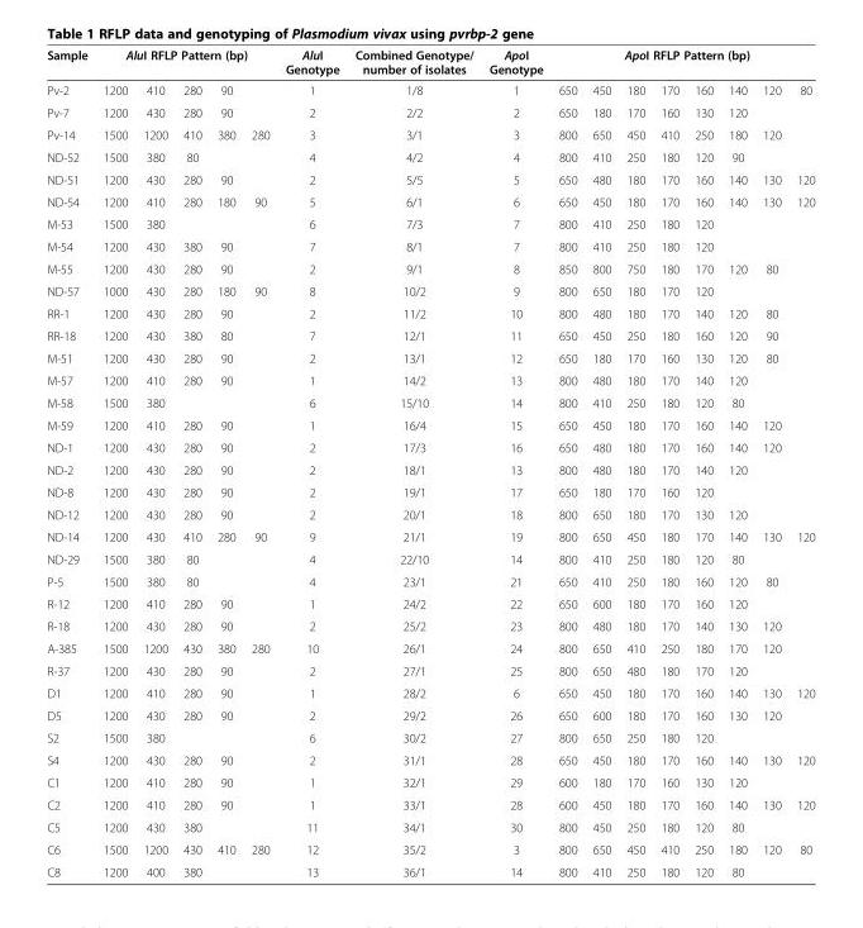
<table><thead><tr><td rowspan="2">Sample Pv-2</td><td colspan="5">AluI RFLP Pattern (bp)</td><td rowspan="2">AluI Genotype 1</td><td rowspan="2">Combined Genotype/ number of isolates 1/8</td><td rowspan="2">ApoI Genotype 1</td><td colspan="8">ApoI RFLP Pattern (bp)</td></tr><tr><td>1200</td><td>410</td><td>280</td><td>90</td><td></td><td>650</td><td>450</td><td>180</td><td>170</td><td>160</td><td>140</td><td>120</td><td>80</td></tr></thead><tbody><tr><td>Pv-7</td><td>1200</td><td>430</td><td>280</td><td>90</td><td></td><td>2</td><td>2/2</td><td>2</td><td>650</td><td>180</td><td>170</td><td>160</td><td>130</td><td>120</td><td></td><td></td></tr><tr><td>Pv-14</td><td>1500</td><td>1200</td><td>410</td><td>380</td><td>280</td><td>3</td><td>3/1</td><td>3</td><td>800</td><td>650</td><td>450</td><td>410</td><td>250</td><td>180</td><td>120</td><td></td></tr><tr><td>ND-52</td><td>1500</td><td>380</td><td>80</td><td></td><td></td><td>4</td><td>4/2</td><td>4</td><td>800</td><td>410</td><td>250</td><td>180</td><td>120</td><td>90</td><td></td><td></td></tr><tr><td>ND-51</td><td>1200</td><td>430</td><td>280</td><td>90</td><td></td><td>2</td><td>5/5</td><td>5</td><td>650</td><td>480</td><td>180</td><td>170</td><td>160</td><td>140</td><td>130</td><td>120</td></tr><tr><td>ND-54</td><td>1200</td><td>410</td><td>280</td><td>180</td><td>90</td><td>5</td><td>6/1</td><td>6</td><td>650</td><td>450</td><td>180</td><td>170</td><td>160</td><td>140</td><td>130</td><td>120</td></tr><tr><td>M-53</td><td>1500</td><td>380</td><td></td><td></td><td></td><td>6</td><td>7/3</td><td>7</td><td>800</td><td>410</td><td>250</td><td>180</td><td>120</td><td></td><td></td><td></td></tr><tr><td>M-54</td><td>1200</td><td>430</td><td>380</td><td>90</td><td></td><td>7</td><td>8/1</td><td>7</td><td>800</td><td>410</td><td>250</td><td>180</td><td>120</td><td></td><td></td><td></td></tr><tr><td>M-55</td><td>1200</td><td>430</td><td>280</td><td>90</td><td></td><td>2</td><td>9/1</td><td>8</td><td>850</td><td>800</td><td>750</td><td>180</td><td>170</td><td>120</td><td>80</td><td></td></tr><tr><td>ND-57</td><td>1000</td><td>430</td><td>280</td><td>180</td><td>90</td><td>8</td><td>10/2</td><td>9</td><td>800</td><td>650</td><td>180</td><td>170</td><td>120</td><td></td><td></td><td></td></tr><tr><td>RR-1</td><td>1200</td><td>430</td><td>280</td><td>90</td><td></td><td>2</td><td>11/2</td><td>10</td><td>800</td><td>480</td><td>180</td><td>170</td><td>140</td><td>120</td><td>80</td><td></td></tr><tr><td>RR-18</td><td>1200</td><td>430</td><td>380</td><td>80</td><td></td><td>7</td><td>12/1</td><td>11</td><td>650</td><td>450</td><td>250</td><td>180</td><td>160</td><td>120</td><td>90</td><td></td></tr><tr><td>M-51</td><td>1200</td><td>430</td><td>280</td><td>90</td><td></td><td>2</td><td>13/1</td><td>12</td><td>650</td><td>180</td><td>170</td><td>160</td><td>130</td><td>120</td><td>80</td><td></td></tr><tr><td>M-57</td><td>1200</td><td>410</td><td>280</td><td>90</td><td></td><td>1</td><td>14/2</td><td>13</td><td>800</td><td>480</td><td>180</td><td>170</td><td>140</td><td>120</td><td></td><td></td></tr><tr><td>M-58</td><td>1500</td><td>380</td><td></td><td></td><td></td><td>6</td><td>15/10</td><td>14</td><td>800</td><td>410</td><td>250</td><td>180</td><td>120</td><td>80</td><td></td><td></td></tr><tr><td>M-59</td><td>1200</td><td>410</td><td>280</td><td>90</td><td></td><td>1</td><td>16/4</td><td>15</td><td>650</td><td>450</td><td>180</td><td>170</td><td>160</td><td>140</td><td>120</td><td></td></tr><tr><td>ND-1</td><td>1200</td><td>430</td><td>280</td><td>90</td><td></td><td>2</td><td>17/3</td><td>16</td><td>650</td><td>480</td><td>180</td><td>170</td><td>160</td><td>140</td><td>120</td><td></td></tr><tr><td>ND-2</td><td>1200</td><td>430</td><td>280</td><td>90</td><td></td><td>2</td><td>18/1</td><td>13</td><td>800</td><td>480</td><td>180</td><td>170</td><td>140</td><td>120</td><td></td><td></td></tr><tr><td>ND-8</td><td>1200</td><td>430</td><td>280</td><td>90</td><td></td><td>2</td><td>19/1</td><td>17</td><td>650</td><td>180</td><td>170</td><td>160</td><td>120</td><td></td><td></td><td></td></tr><tr><td>ND-12</td><td>1200</td><td>430</td><td>280</td><td>90</td><td></td><td>2</td><td>20/1</td><td>18</td><td>800</td><td>650</td><td>180</td><td>170</td><td>130</td><td>120</td><td></td><td></td></tr><tr><td>ND-14</td><td>1200</td><td>430</td><td>410</td><td>280</td><td>90</td><td>9</td><td>21/1</td><td>19</td><td>800</td><td>650</td><td>450</td><td>180</td><td>170</td><td>140</td><td>130</td><td>120</td></tr><tr><td>ND-29</td><td>1500</td><td>380</td><td>80</td><td></td><td></td><td>4</td><td>22/10</td><td>14</td><td>800</td><td>410</td><td>250</td><td>180</td><td>120</td><td>80</td><td></td><td></td></tr><tr><td>P-5</td><td>1500</td><td>380</td><td>80</td><td></td><td></td><td>4</td><td>23/1</td><td>21</td><td>650</td><td>410</td><td>250</td><td>180</td><td>160</td><td>120</td><td>80</td><td></td></tr><tr><td>R-12</td><td>1200</td><td>410</td><td>280</td><td>90</td><td></td><td>1</td><td>24/2</td><td>22</td><td>650</td><td>600</td><td>180</td><td>170</td><td>160</td><td>120</td><td></td><td></td></tr><tr><td>R-18</td><td>1200</td><td>430</td><td>280</td><td>90</td><td></td><td>2</td><td>25/2</td><td>23</td><td>800</td><td>480</td><td>180</td><td>170</td><td>140</td><td>130</td><td>120</td><td></td></tr><tr><td>A-385</td><td>1500</td><td>1200</td><td>430</td><td>380</td><td>280</td><td>10</td><td>26/1</td><td>24</td><td>800</td><td>650</td><td>410</td><td>250</td><td>180</td><td>170</td><td>120</td><td></td></tr><tr><td>R-37</td><td>1200</td><td>430</td><td>280</td><td>90</td><td></td><td>2</td><td>27/1</td><td>25</td><td>800</td><td>650</td><td>480</td><td>180</td><td>170</td><td>120</td><td></td><td></td></tr><tr><td>D1</td><td>1200</td><td>410</td><td>280</td><td>90</td><td></td><td>1</td><td>28/2</td><td>6</td><td>650</td><td>450</td><td>180</td><td>170</td><td>160</td><td>140</td><td>130</td><td>120</td></tr><tr><td>D5</td><td>1200</td><td>430</td><td>280</td><td>90</td><td></td><td>2</td><td>29/2</td><td>26</td><td>650</td><td>600</td><td>180</td><td>170</td><td>160</td><td>130</td><td>120</td><td></td></tr><tr><td>S2</td><td>1500</td><td>380</td><td></td><td></td><td></td><td>6</td><td>30/2</td><td>27</td><td>800</td><td>650</td><td>250</td><td>180</td><td>120</td><td></td><td></td><td></td></tr><tr><td>S4</td><td>1200</td><td>430</td><td>280</td><td>90</td><td></td><td>2</td><td>31/1</td><td>28</td><td>650</td><td>450</td><td>180</td><td>170</td><td>160</td><td>140</td><td>130</td><td>120</td></tr><tr><td>C1</td><td>1200</td><td>410</td><td>280</td><td>90</td><td></td><td>1</td><td>32/1</td><td>29</td><td>600</td><td>180</td><td>170</td><td>160</td><td>130</td><td>120</td><td></td><td></td></tr><tr><td>C2</td><td>1200</td><td>410</td><td>280</td><td>90</td><td></td><td>1</td><td>33/1</td><td>28</td><td>600</td><td>450</td><td>180</td><td>170</td><td>160</td><td>140</td><td>130</td><td>120</td></tr><tr><td>C5</td><td>1200</td><td>430</td><td>380</td><td></td><td></td><td>11</td><td>34/1</td><td>30</td><td>800</td><td>450</td><td>250</td><td>180</td><td>120</td><td>80</td><td></td><td></td></tr><tr><td>C6</td><td>1500</td><td>1200</td><td>430</td><td>410</td><td>280</td><td>12</td><td>35/2</td><td>3</td><td>800</td><td>650</td><td>450</td><td>410</td><td>250</td><td>180</td><td>120</td><td>80</td></tr><tr><td>C8</td><td>1200</td><td>400</td><td>380</td><td></td><td></td><td>13</td><td>36/1</td><td>14</td><td>800</td><td>410</td><td>250</td><td>180</td><td>120</td><td>80</td><td></td><td></td></tr></tbody></table>